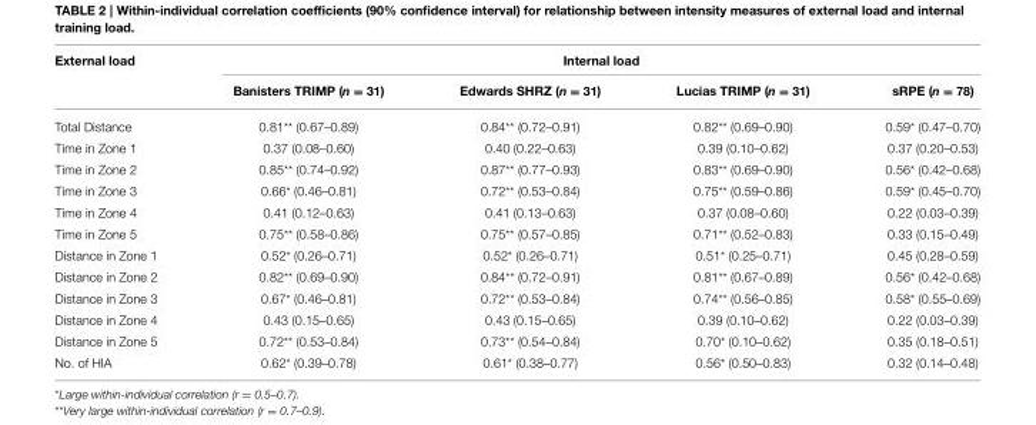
<table><thead><tr><td rowspan="2">External load</td><td colspan="4">Internal load</td></tr><tr><td>Banisters TRIMP (n = 31)</td><td>Edwards SHRZ (n = 31)</td><td>Lucias TRIMP (n = 31)</td><td>sRPE (n = 78)</td></tr></thead><tbody><tr><td>Total Distance</td><td>0.81** (0.67–0.89)</td><td>0.84** (0.72–0.91)</td><td>0.82** (0.69–0.90)</td><td>0.59* (0.47–0.70)</td></tr><tr><td>Time in Zone 1</td><td>0.37 (0.08–0.60)</td><td>0.40 (0.22–0.63)</td><td>0.39 (0.10–0.62)</td><td>0.37 (0.20–0.53)</td></tr><tr><td>Time in Zone 2</td><td>0.85** (0.74–0.92)</td><td>0.87** (0.77–0.93)</td><td>0.83** (0.69–0.90)</td><td>0.56* (0.42–0.68)</td></tr><tr><td>Time in Zone 3</td><td>0.66* (0.46–0.81)</td><td>0.72** (0.53–0.84)</td><td>0.75** (0.59–0.86)</td><td>0.59* (0.45–0.70)</td></tr><tr><td>Time in Zone 4</td><td>0.41 (0.12–0.63)</td><td>0.41 (0.13–0.63)</td><td>0.37 (0.08–0.60)</td><td>0.22 (0.03–0.39)</td></tr><tr><td>Time in Zone 5</td><td>0.75** (0.58–0.86)</td><td>0.75** (0.57–0.85)</td><td>0.71** (0.52–0.83)</td><td>0.33 (0.15–0.49)</td></tr><tr><td>Distance in Zone 1</td><td>0.52* (0.26–0.71)</td><td>0.52* (0.26–0.71)</td><td>0.51* (0.25–0.71)</td><td>0.45 (0.28–0.59)</td></tr><tr><td>Distance in Zone 2</td><td>0.82** (0.69–0.90)</td><td>0.84** (0.72–0.91)</td><td>0.81** (0.67–0.89)</td><td>0.56* (0.42–0.68)</td></tr><tr><td>Distance in Zone 3</td><td>0.67* (0.46–0.81)</td><td>0.72** (0.53–0.84)</td><td>0.74** (0.56–0.85)</td><td>0.58* (0.55–0.69)</td></tr><tr><td>Distance in Zone 4</td><td>0.43 (0.15–0.65)</td><td>0.43 (0.15–0.65)</td><td>0.39 (0.10–0.62)</td><td>0.22 (0.03–0.39)</td></tr><tr><td>Distance in Zone 5</td><td>0.72** (0.53–0.84)</td><td>0.73** (0.54–0.84)</td><td>0.70* (0.10–0.62)</td><td>0.35 (0.18–0.51)</td></tr><tr><td>No. of HIA</td><td>0.62* (0.39–0.78)</td><td>0.61* (0.38–0.77)</td><td>0.56* (0.50–0.83)</td><td>0.32 (0.14–0.48)</td></tr></tbody></table>